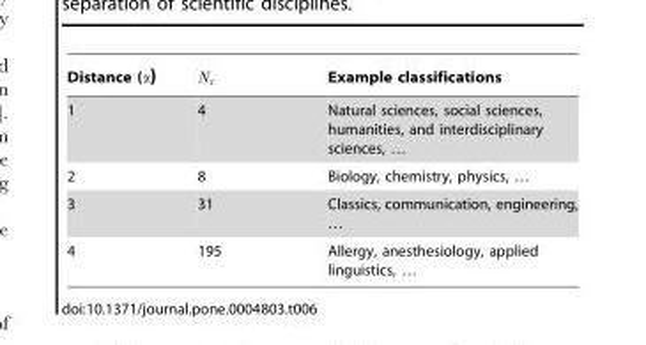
<table><thead><tr><td>Distance (a)</td><td>Nc</td><td>Example classifications</td></tr></thead><tbody><tr><td>1</td><td>4</td><td>Natural sciences, social sciences, humanities, and interdisciplinary sciences, …</td></tr><tr><td>2</td><td>8</td><td>Biology, chemistry, physics, …</td></tr><tr><td>3</td><td>31</td><td>Classics, communication, engineering, …</td></tr><tr><td>4</td><td>195</td><td>Allergy, anesthesiology, applied linguistics, …</td></tr></tbody></table>